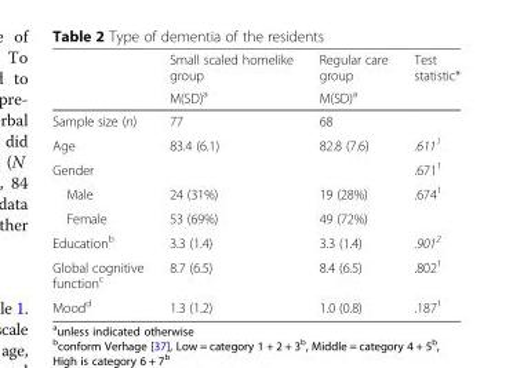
<table><thead><tr><td rowspan="2"></td><td rowspan="2">Small scaled homelike group M(SD)<sup>a</sup></td><td rowspan="2">Regular care group M(SD)<sup>a</sup></td><td rowspan="2">Test statistic*</td></tr><tr></tr></thead><tbody><tr><td>Sample size (n)</td><td>77</td><td>68</td><td></td></tr><tr><td>Age</td><td>83.4 (6.1)</td><td>82.8 (7.6)</td><td>.611<sup>1</sup></td></tr><tr><td>Gender</td><td></td><td></td><td>.671<sup>1</sup></td></tr><tr><td>Male</td><td>24 (31%)</td><td>19 (28%)</td><td>.674<sup>1</sup></td></tr><tr><td>Female</td><td>53 (69%)</td><td>49 (72%)</td><td></td></tr><tr><td>Education<sup>b</sup></td><td>3.3 (1.4)</td><td>3.3 (1.4)</td><td>.901<sup>2</sup></td></tr><tr><td>Global cognitive function<sup>c</sup></td><td>8.7 (6.5)</td><td>8.4 (6.5)</td><td>.802<sup>1</sup></td></tr><tr><td>Mood<sup>d</sup></td><td>1.3 (1.2)</td><td>1.0 (0.8)</td><td>.187<sup>1</sup></td></tr></tbody></table>